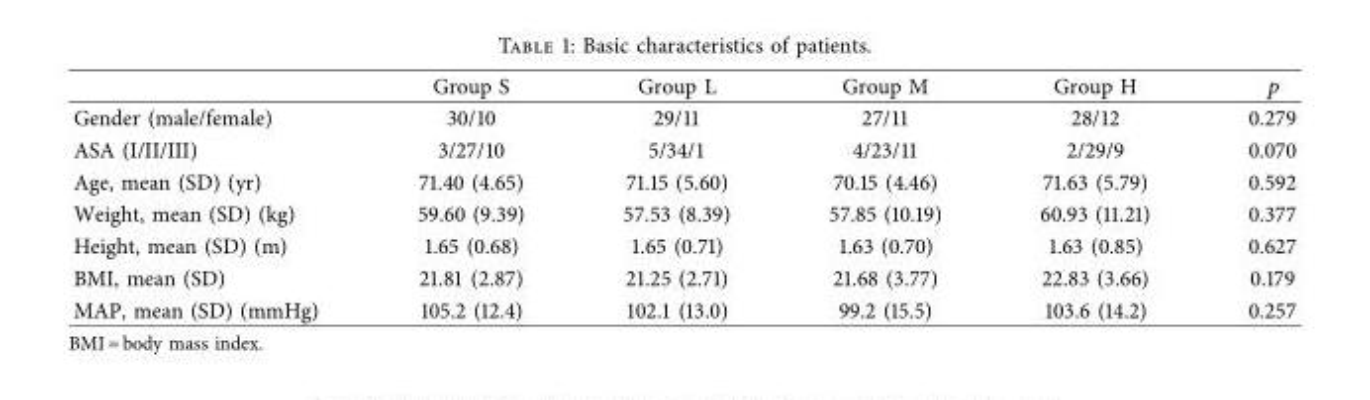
<table><thead><tr><td></td><td>Group S</td><td>Group L</td><td>Group M</td><td>Group H</td><td>p</td></tr></thead><tbody><tr><td>Gender (male/female)</td><td>30/10</td><td>29/11</td><td>27/11</td><td>28/12</td><td>0.279</td></tr><tr><td>ASA (I/II/III)</td><td>3/27/10</td><td>5/34/1</td><td>4/23/11</td><td>2/29/9</td><td>0.070</td></tr><tr><td>Age, mean (SD) (yr)</td><td>71.40 (4.65)</td><td>71.15 (5.60)</td><td>70.15 (4.46)</td><td>71.63 (5.79)</td><td>0.592</td></tr><tr><td>Weight, mean (SD) (kg)</td><td>59.60 (9.39)</td><td>57.53 (8.39)</td><td>57.85 (10.19)</td><td>60.93 (11.21)</td><td>0.377</td></tr><tr><td>Height, mean (SD) (m)</td><td>1.65 (0.68)</td><td>1.65 (0.71)</td><td>1.63 (0.70)</td><td>1.63 (0.85)</td><td>0.627</td></tr><tr><td>BMI, mean (SD)</td><td>21.81 (2.87)</td><td>21.25 (2.71)</td><td>21.68 (3.77)</td><td>22.83 (3.66)</td><td>0.179</td></tr><tr><td>MAP, mean (SD) (mmHg)</td><td>105.2 (12.4)</td><td>102.1 (13.0)</td><td>99.2 (15.5)</td><td>103.6 (14.2)</td><td>0.257</td></tr></tbody></table>